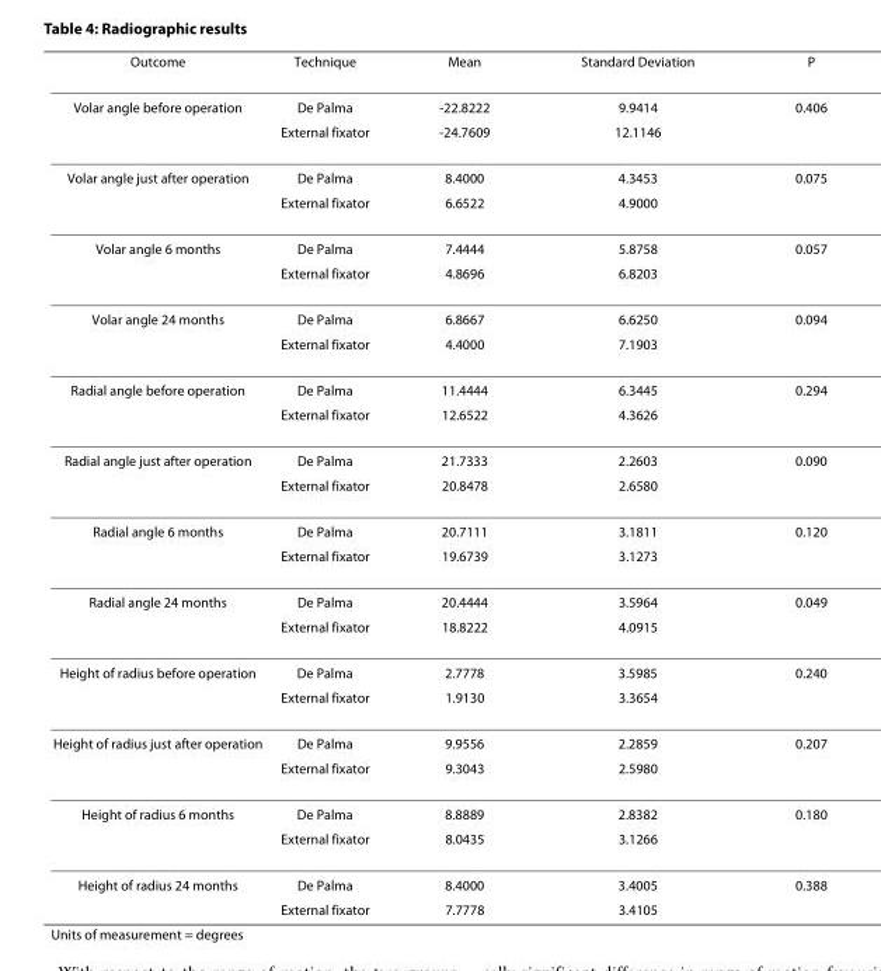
<table><thead><tr><td>Outcome</td><td>Technique</td><td>Mean</td><td>Standard Deviation</td><td>P</td></tr></thead><tbody><tr><td rowspan="2">Volar angle before operation</td><td>De Palma</td><td>-22.8222</td><td>9.9414</td><td>0.406</td></tr><tr><td>External fixator</td><td>-24.7609</td><td>12.1146</td><td></td></tr><tr><td rowspan="2">Volar angle just after operation</td><td>De Palma</td><td>8.4000</td><td>4.3453</td><td>0.075</td></tr><tr><td>External fixator</td><td>6.6522</td><td>4.9000</td><td></td></tr><tr><td rowspan="2">Volar angle 6 months</td><td>De Palma</td><td>7.4444</td><td>5.8758</td><td>0.057</td></tr><tr><td>External fixator</td><td>4.8696</td><td>6.8203</td><td></td></tr><tr><td rowspan="2">Volar angle 24 months</td><td>De Palma</td><td>6.8667</td><td>6.6250</td><td>0.094</td></tr><tr><td>External fixator</td><td>4.4000</td><td>7.1903</td><td></td></tr><tr><td rowspan="2">Radial angle before operation</td><td>De Palma</td><td>11.4444</td><td>6.3445</td><td>0.294</td></tr><tr><td>External fixator</td><td>12.6522</td><td>4.3626</td><td></td></tr><tr><td rowspan="2">Radial angle just after operation</td><td>De Palma</td><td>21.7333</td><td>2.2603</td><td>0.090</td></tr><tr><td>External fixator</td><td>20.8478</td><td>2.6580</td><td></td></tr><tr><td rowspan="2">Radial angle 6 months</td><td>De Palma</td><td>20.7111</td><td>3.1811</td><td>0.120</td></tr><tr><td>External fixator</td><td>19.6739</td><td>3.1273</td><td></td></tr><tr><td rowspan="2">Radial angle 24 months</td><td>De Palma</td><td>20.4444</td><td>3.5964</td><td>0.049</td></tr><tr><td>External fixator</td><td>18.8222</td><td>4.0915</td><td></td></tr><tr><td rowspan="2">Height of radius before operation</td><td>De Palma</td><td>2.7778</td><td>3.5985</td><td>0.240</td></tr><tr><td>External fixator</td><td>1.9130</td><td>3.3654</td><td></td></tr><tr><td rowspan="2">Height of radius just after operation</td><td>De Palma</td><td>9.9556</td><td>2.2859</td><td>0.207</td></tr><tr><td>External fixator</td><td>9.3043</td><td>2.5980</td><td></td></tr><tr><td rowspan="2">Height of radius 6 months</td><td>De Palma</td><td>8.8889</td><td>2.8382</td><td>0.180</td></tr><tr><td>External fixator</td><td>8.0435</td><td>3.1266</td><td></td></tr><tr><td rowspan="2">Height of radius 24 months</td><td>De Palma</td><td>8.4000</td><td>3.4005</td><td>0.388</td></tr><tr><td>External fixator</td><td>7.7778</td><td>3.4105</td><td></td></tr></tbody></table>